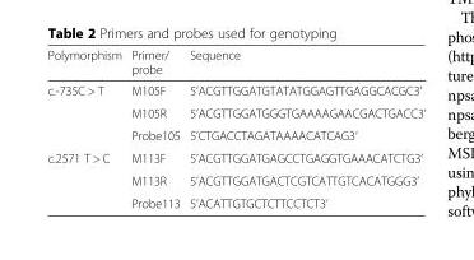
<table><thead><tr><td>Polymorphism</td><td>Primer/ probe</td><td>Sequence</td></tr></thead><tbody><tr><td rowspan="3">c.-735C &gt; T</td><td>M105F</td><td>5’ACGTTGGATGTATATGGAGTTGAGGCACGC3’</td></tr><tr><td>M105R</td><td>5’ACGTTGGATGGGTGAAAAGAACGACTGACC3’</td></tr><tr><td>Probe105</td><td>5’CTGACCTAGATAAAACATCAG3’</td></tr><tr><td rowspan="3">c.2571 T &gt; C</td><td>M113F</td><td>5’ACGTTGGATGAGCCTGAGGTGAAACATCTG3’</td></tr><tr><td>M113R</td><td>5’ACGTTGGATGACTCGTCATTGTCACATGGG3’</td></tr><tr><td>Probe113</td><td>5’ACATTGTGCTCTTCCTCT3’</td></tr></tbody></table>